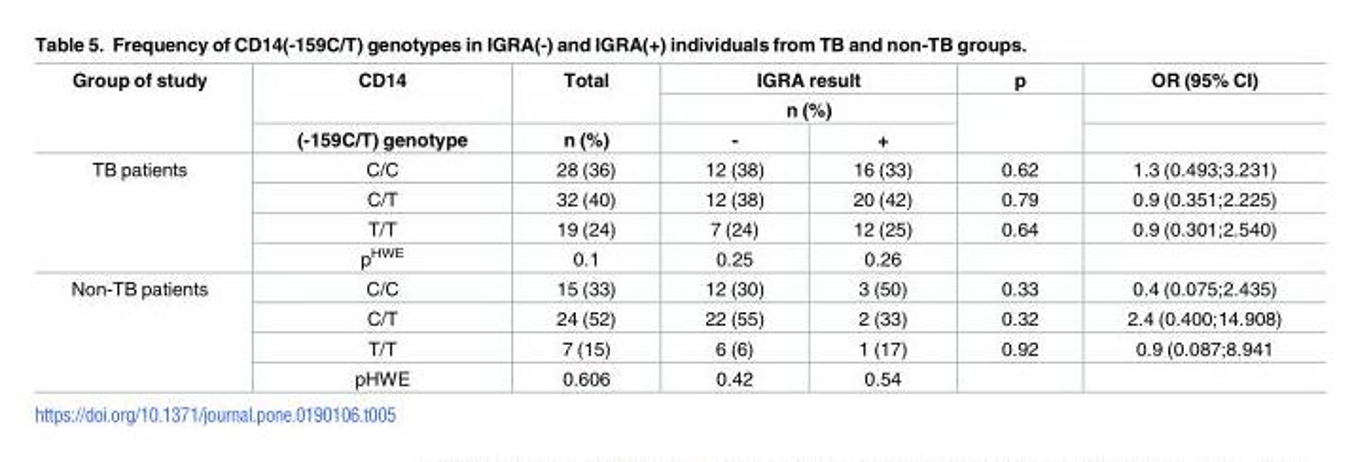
<table><thead><tr><td rowspan="3">Group of study</td><td rowspan="3">CD14 (-159C/T) genotype</td><td rowspan="3">Total n (%)</td><td rowspan="2" colspan="2">IGRA result n (%)</td><td rowspan="3">p</td><td rowspan="3">OR (95% CI)</td></tr><tr></tr><tr><td>-</td><td>+</td></tr></thead><tbody><tr><td rowspan="4">TB patients</td><td>C/C</td><td>28 (36)</td><td>12 (38)</td><td>16 (33)</td><td>0.62</td><td>1.3 (0.493;3.231)</td></tr><tr><td>C/T</td><td>32 (40)</td><td>12 (38)</td><td>20 (42)</td><td>0.79</td><td>0.9 (0.351;2.225)</td></tr><tr><td>T/T</td><td>19 (24)</td><td>7 (24)</td><td>12 (25)</td><td>0.64</td><td>0.9 (0.301;2.540)</td></tr><tr><td>p<sup>HWE</sup></td><td>0.1</td><td>0.25</td><td>0.26</td><td></td><td></td></tr><tr><td rowspan="4">Non-TB patients</td><td>C/C</td><td>15 (33)</td><td>12 (30)</td><td>3 (50)</td><td>0.33</td><td>0.4 (0.075;2.435)</td></tr><tr><td>C/T</td><td>24 (52)</td><td>22 (55)</td><td>2 (33)</td><td>0.32</td><td>2.4 (0.400;14.908)</td></tr><tr><td>T/T</td><td>7 (15)</td><td>6 (6)</td><td>1 (17)</td><td>0.92</td><td>0.9 (0.087;8.941</td></tr><tr><td>pHWE</td><td>0.606</td><td>0.42</td><td>0.54</td><td></td><td></td></tr></tbody></table>